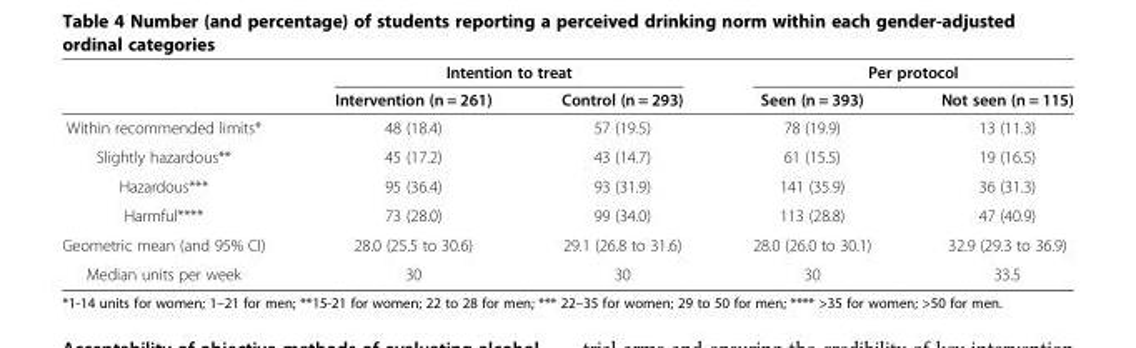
<table><thead><tr><td rowspan="2"></td><td colspan="2">Intention to treat</td><td colspan="2">Per protocol</td></tr><tr><td>Intervention (n = 261)</td><td>Control (n = 293)</td><td>Seen (n = 393)</td><td>Not seen (n = 115)</td></tr></thead><tbody><tr><td>Within recommended limits*</td><td>48 (18.4)</td><td>57 (19.5)</td><td>78 (19.9)</td><td>13 (11.3)</td></tr><tr><td>Slightly hazardous**</td><td>45 (17.2)</td><td>43 (14.7)</td><td>61 (15.5)</td><td>19 (16.5)</td></tr><tr><td>Hazardous***</td><td>95 (36.4)</td><td>93 (31.9)</td><td>141 (35.9)</td><td>36 (31.3)</td></tr><tr><td>Harmful****</td><td>73 (28.0)</td><td>99 (34.0)</td><td>113 (28.8)</td><td>47 (40.9)</td></tr><tr><td>Geometric mean (and 95% CI)</td><td>28.0 (25.5 to 30.6)</td><td>29.1 (26.8 to 31.6)</td><td>28.0 (26.0 to 30.1)</td><td>32.9 (29.3 to 36.9)</td></tr><tr><td>Median units per week</td><td>30</td><td>30</td><td>30</td><td>33.5</td></tr></tbody></table>